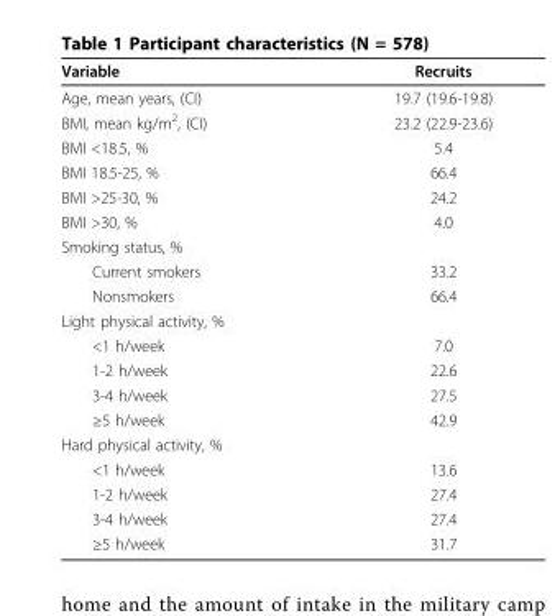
<table><thead><tr><td>Variable</td><td>Recruits</td></tr></thead><tbody><tr><td>Age, mean years, (CI)</td><td>19.7 (19.6-19.8)</td></tr><tr><td>BMI, mean kg/m<sup>2</sup>, (CI)</td><td>23.2 (22.9-23.6)</td></tr><tr><td>BMI &lt;18.5, %</td><td>5.4</td></tr><tr><td>BMI 18.5-25, %</td><td>66.4</td></tr><tr><td>BMI &gt;25-30, %</td><td>24.2</td></tr><tr><td>BMI &gt;30, %</td><td>4.0</td></tr><tr><td colspan="2">Smoking status, %</td></tr><tr><td>Current smokers</td><td>33.2</td></tr><tr><td>Nonsmokers</td><td>66.4</td></tr><tr><td colspan="2">Light physical activity, %</td></tr><tr><td>&lt;1 h/week</td><td>7.0</td></tr><tr><td>1-2 h/week</td><td>22.6</td></tr><tr><td>3-4 h/week</td><td>27.5</td></tr><tr><td>≥5 h/week</td><td>42.9</td></tr><tr><td colspan="2">Hard physical activity, %</td></tr><tr><td>&lt;1 h/week</td><td>13.6</td></tr><tr><td>1-2 h/week</td><td>27.4</td></tr><tr><td>3-4 h/week</td><td>27.4</td></tr><tr><td>≥5 h/week</td><td>31.7</td></tr></tbody></table>